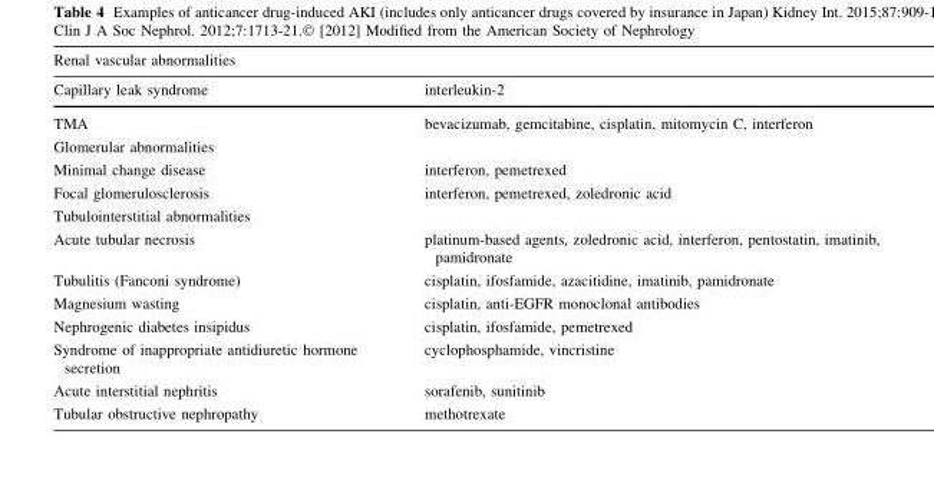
<table><thead><tr><td colspan="2">Renal vascular abnormalities</td></tr><tr><td>Capillary leak syndrome</td><td>interleukin-2</td></tr></thead><tbody><tr><td>TMA</td><td>bevacizumab, gemcitabine, cisplatin, mitomycin C, interferon</td></tr><tr><td colspan="2">Glomerular abnormalities</td></tr><tr><td>Minimal change disease</td><td>interferon, pemetrexed</td></tr><tr><td>Focal glomerulosclerosis</td><td>interferon, pemetrexed, zoledronic acid</td></tr><tr><td colspan="2">Tubulointerstitial abnormalities</td></tr><tr><td>Acute tubular necrosis</td><td>platinum-based agents, zoledronic acid, interferon, pentostatin, imatinib, pamidronate</td></tr><tr><td>Tubulitis (Fanconi syndrome)</td><td>cisplatin, ifosfamide, azacitidine, imatinib, pamidronate</td></tr><tr><td>Magnesium wasting</td><td>cisplatin, anti-EGFR monoclonal antibodies</td></tr><tr><td>Nephrogenic diabetes insipidus</td><td>cisplatin, ifosfamide, pemetrexed</td></tr><tr><td>Syndrome of inappropriate antidiuretic hormone secretion</td><td>cyclophosphamide, vincristine</td></tr><tr><td>Acute interstitial nephritis</td><td>sorafenib, sunitinib</td></tr><tr><td>Tubular obstructive nephropathy</td><td>methotrexate</td></tr></tbody></table>